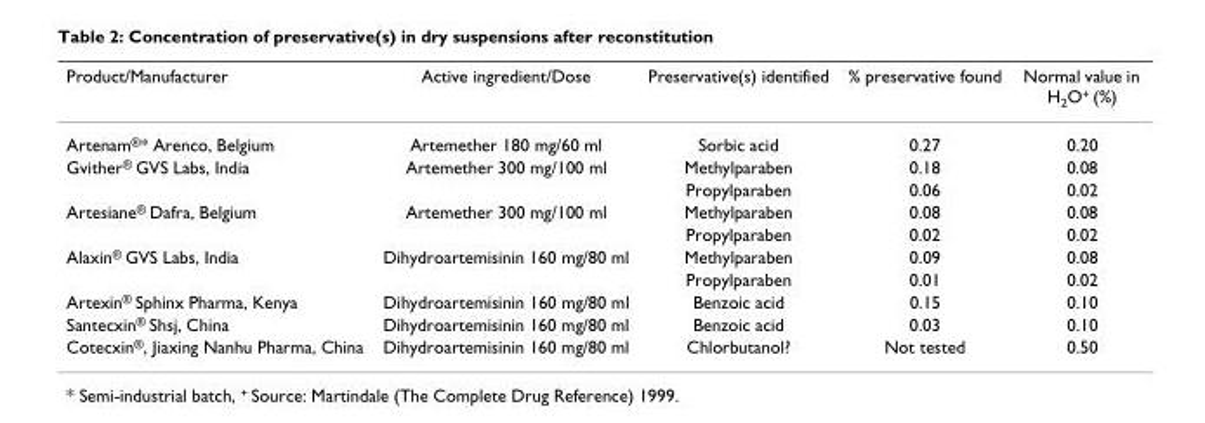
<table><thead><tr><td>Product/Manufacturer</td><td>Active ingredient/Dose</td><td>Preservative(s) identified</td><td>% preservative found</td><td>Normal value in H<sub>2</sub>O<sup>+</sup> (%)</td></tr></thead><tbody><tr><td>Artenam<sup>®</sup>* Arenco, Belgium</td><td>Artemether 180 mg/60 ml</td><td>Sorbic acid</td><td>0.27</td><td>0.20</td></tr><tr><td rowspan="2">Gvither<sup>®</sup> GVS Labs, India</td><td>Artemether 300 mg/100 ml</td><td>Methylparaben</td><td>0.18</td><td>0.08</td></tr><tr><td></td><td>Propylparaben</td><td>0.06</td><td>0.02</td></tr><tr><td rowspan="2">Artesiane<sup>®</sup> Dafra, Belgium</td><td>Artemether 300 mg/100 ml</td><td>Methylparaben</td><td>0.08</td><td>0.08</td></tr><tr><td></td><td>Propylparaben</td><td>0.02</td><td>0.02</td></tr><tr><td rowspan="2">Alaxin<sup>®</sup> GVS Labs, India</td><td>Dihydroartemisinin 160 mg/80 ml</td><td>Methylparaben</td><td>0.09</td><td>0.08</td></tr><tr><td></td><td>Propylparaben</td><td>0.01</td><td>0.02</td></tr><tr><td>Artexin<sup>®</sup> Sphinx Pharma, Kenya</td><td>Dihydroartemisinin 160 mg/80 ml</td><td>Benzoic acid</td><td>0.15</td><td>0.10</td></tr><tr><td>Santecxin<sup>®</sup> Shsj, China</td><td>Dihydroartemisinin 160 mg/80 ml</td><td>Benzoic acid</td><td>0.03</td><td>0.10</td></tr><tr><td>Cotecxin<sup>®</sup>, Jiaxing Nanhu Pharma, China</td><td>Dihydroartemisinin 160 mg/80 ml</td><td>Chlorbutanol?</td><td>Not tested</td><td>0.50</td></tr></tbody></table>